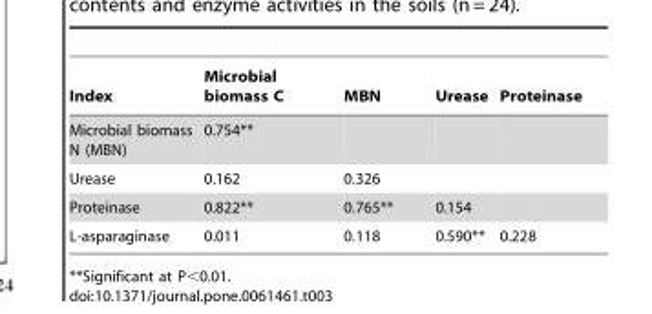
<table><thead><tr><td>Index</td><td>Microbial biomass C</td><td>MBN</td><td>Urease</td><td>Proteinase</td></tr></thead><tbody><tr><td>Microbial biomass N (MBN)</td><td>0.754**</td><td></td><td></td><td></td></tr><tr><td>Urease</td><td>0.162</td><td>0.326</td><td></td><td></td></tr><tr><td>Proteinase</td><td>0.822**</td><td>0.765**</td><td>0.154</td><td></td></tr><tr><td>L-asparaginase</td><td>0.011</td><td>0.118</td><td>0.590**</td><td>0.228</td></tr></tbody></table>